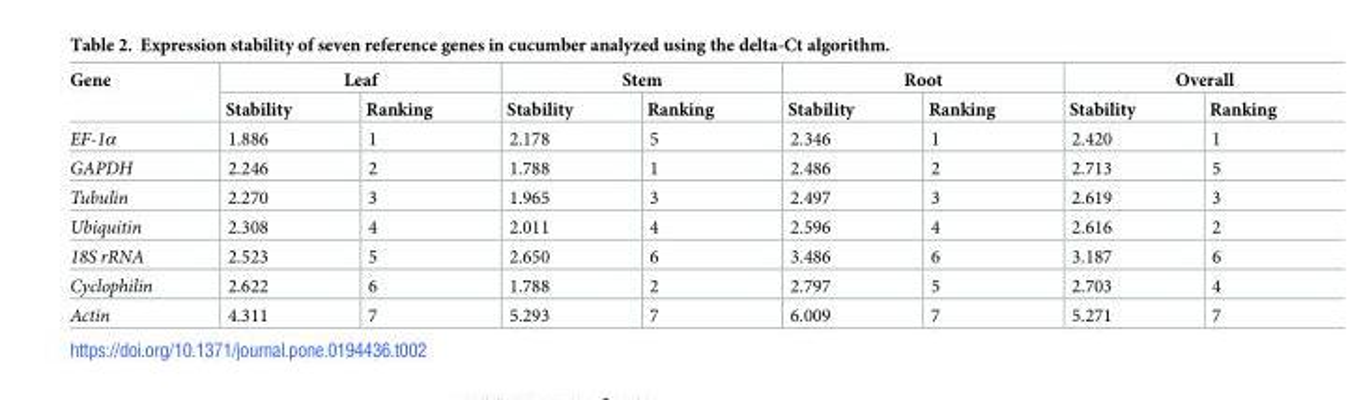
<table><thead><tr><td rowspan="2">Gene</td><td colspan="2">Leaf</td><td colspan="2">Stem</td><td colspan="2">Root</td><td colspan="2">Overall</td></tr><tr><td>Stability</td><td>Ranking</td><td>Stability</td><td>Ranking</td><td>Stability</td><td>Ranking</td><td>Stability</td><td>Ranking</td></tr></thead><tbody><tr><td>EF-1α</td><td>1.886</td><td>1</td><td>2.178</td><td>5</td><td>2.346</td><td>1</td><td>2.420</td><td>1</td></tr><tr><td>GAPDH</td><td>2.246</td><td>2</td><td>1.788</td><td>1</td><td>2.486</td><td>2</td><td>2.713</td><td>5</td></tr><tr><td>Tubulin</td><td>2.270</td><td>3</td><td>1.965</td><td>3</td><td>2.497</td><td>3</td><td>2.619</td><td>3</td></tr><tr><td>Ubiquitin</td><td>2.308</td><td>4</td><td>2.011</td><td>4</td><td>2.596</td><td>4</td><td>2.616</td><td>2</td></tr><tr><td>18S rRNA</td><td>2.523</td><td>5</td><td>2.650</td><td>6</td><td>3.486</td><td>6</td><td>3.187</td><td>6</td></tr><tr><td>Cyclophilin</td><td>2.622</td><td>6</td><td>1.788</td><td>2</td><td>2.797</td><td>5</td><td>2.703</td><td>4</td></tr><tr><td>Actin</td><td>4.311</td><td>7</td><td>5.293</td><td>7</td><td>6.009</td><td>7</td><td>5.271</td><td>7</td></tr></tbody></table>